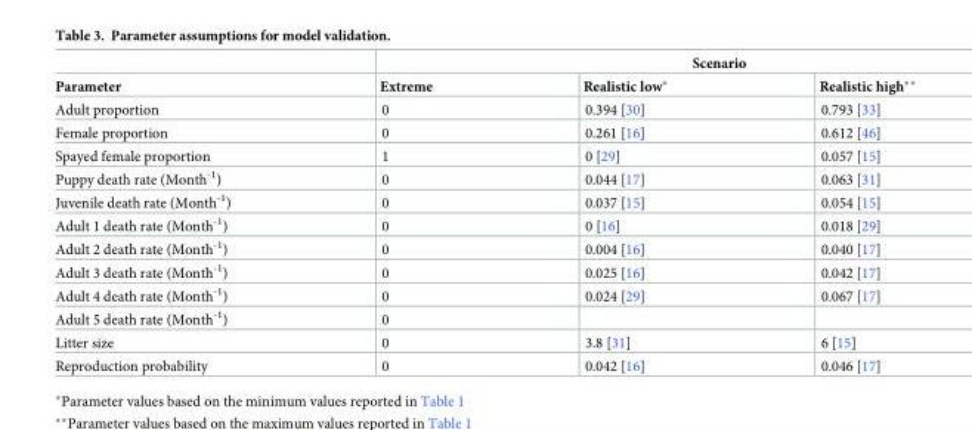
<table><thead><tr><td rowspan="2">Parameter</td><td colspan="3">Scenario</td></tr><tr><td>Extreme</td><td>Realistic low*</td><td>Realistic high**</td></tr></thead><tbody><tr><td>Adult proportion</td><td>0</td><td>0.394 [30]</td><td>0.793 [33]</td></tr><tr><td>Female proportion</td><td>0</td><td>0.261 [16]</td><td>0.612 [46]</td></tr><tr><td>Spayed female proportion</td><td>1</td><td>0 [29]</td><td>0.057 [15]</td></tr><tr><td>Puppy death rate (Month<sup>-1</sup>)</td><td>0</td><td>0.044 [17]</td><td>0.063 [31]</td></tr><tr><td>Juvenile death rate (Month<sup>-1</sup>)</td><td>0</td><td>0.037 [15]</td><td>0.054 [15]</td></tr><tr><td>Adult 1 death rate (Month<sup>-1</sup>)</td><td>0</td><td>0 [16]</td><td>0.018 [29]</td></tr><tr><td>Adult 2 death rate (Month<sup>-1</sup>)</td><td>0</td><td>0.004 [16]</td><td>0.040 [17]</td></tr><tr><td>Adult 3 death rate (Month<sup>-1</sup>)</td><td>0</td><td>0.025 [16]</td><td>0.042 [17]</td></tr><tr><td>Adult 4 death rate (Month<sup>-1</sup>)</td><td>0</td><td>0.024 [29]</td><td>0.067 [17]</td></tr><tr><td>Adult 5 death rate (Month<sup>-1</sup>)</td><td>0</td><td></td><td></td></tr><tr><td>Litter size</td><td>0</td><td>3.8 [31]</td><td>6 [15]</td></tr><tr><td>Reproduction probability</td><td>0</td><td>0.042 [16]</td><td>0.046 [17]</td></tr></tbody></table>